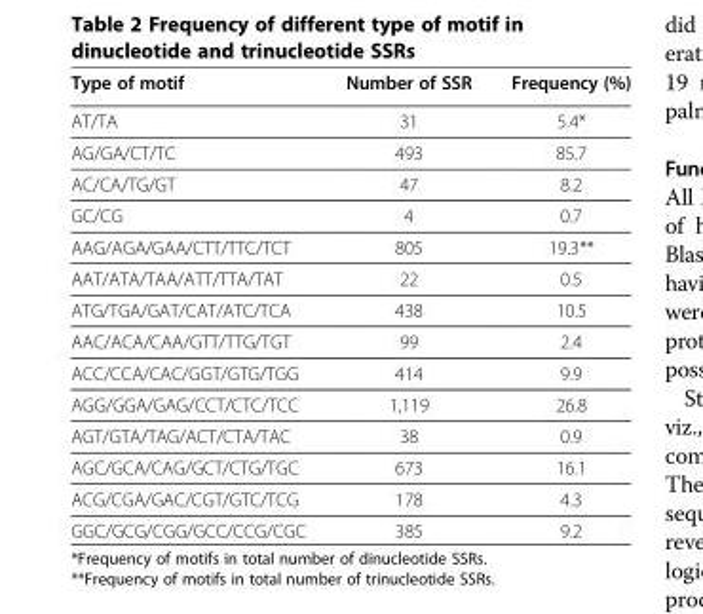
<table><thead><tr><td>Type of motif</td><td>Number of SSR</td><td>Frequency (%)</td></tr></thead><tbody><tr><td>AT/TA</td><td>31</td><td>5.4*</td></tr><tr><td>AG/GA/CT/TC</td><td>493</td><td>85.7</td></tr><tr><td>AC/CA/TG/GT</td><td>47</td><td>8.2</td></tr><tr><td>GC/CG</td><td>4</td><td>0.7</td></tr><tr><td>AAG/AGA/GAA/CTT/TTC/TCT</td><td>805</td><td>19.3**</td></tr><tr><td>AAT/ATA/TAA/ATT/TTA/TAT</td><td>22</td><td>0.5</td></tr><tr><td>ATG/TGA/GAT/CAT/ATC/TCA</td><td>438</td><td>10.5</td></tr><tr><td>AAC/ACA/CAA/GTT/TTG/TGT</td><td>99</td><td>2.4</td></tr><tr><td>ACC/CCA/CAC/GGT/GTG/TGG</td><td>414</td><td>9.9</td></tr><tr><td>AGG/GGA/GAG/CCT/CTC/TCC</td><td>1,119</td><td>26.8</td></tr><tr><td>AGT/GTA/TAG/ACT/CTA/TAC</td><td>38</td><td>0.9</td></tr><tr><td>AGC/GCA/CAG/GCT/CTG/TGC</td><td>673</td><td>16.1</td></tr><tr><td>ACG/CGA/GAC/CGT/GTC/TCG</td><td>178</td><td>4.3</td></tr><tr><td>GGC/GCG/CGG/GCC/CCG/CGC</td><td>385</td><td>9.2</td></tr></tbody></table>